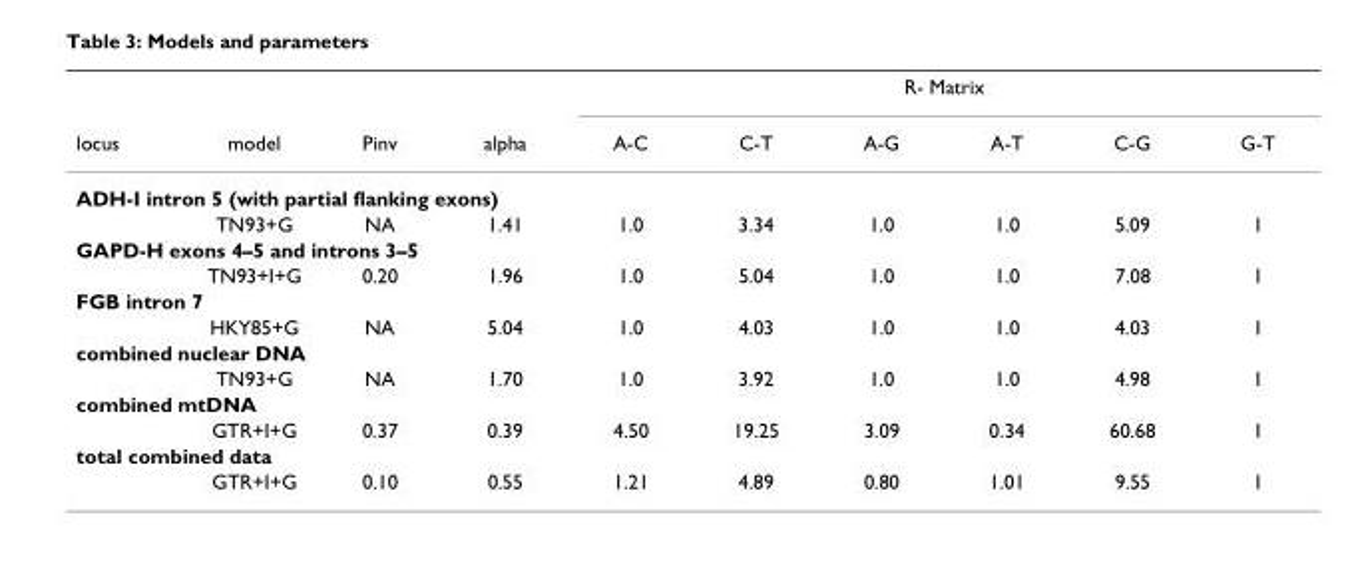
<table><thead><tr><td rowspan="2">locus</td><td rowspan="2">model</td><td rowspan="2">Pinv</td><td rowspan="2">alpha</td><td colspan="6">R- Matrix</td></tr><tr><td>A-C</td><td>C-T</td><td>A-G</td><td>A-T</td><td>C-G</td><td>G-T</td></tr></thead><tbody><tr><td colspan="10">ADH-I intron 5 (with partial flanking exons)</td></tr><tr><td></td><td>TN93+G</td><td>NA</td><td>1.41</td><td>1.0</td><td>3.34</td><td>1.0</td><td>1.0</td><td>5.09</td><td>1</td></tr><tr><td colspan="10">GAPD-H exons 4–5 and introns 3–5</td></tr><tr><td></td><td>TN93+I+G</td><td>0.20</td><td>1.96</td><td>1.0</td><td>5.04</td><td>1.0</td><td>1.0</td><td>7.08</td><td>1</td></tr><tr><td colspan="10">FGB intron 7</td></tr><tr><td></td><td>HKY85+G</td><td>NA</td><td>5.04</td><td>1.0</td><td>4.03</td><td>1.0</td><td>1.0</td><td>4.03</td><td>1</td></tr><tr><td colspan="10">combined nuclear DNA</td></tr><tr><td></td><td>TN93+G</td><td>NA</td><td>1.70</td><td>1.0</td><td>3.92</td><td>1.0</td><td>1.0</td><td>4.98</td><td>1</td></tr><tr><td colspan="10">combined mtDNA</td></tr><tr><td></td><td>GTR+I+G</td><td>0.37</td><td>0.39</td><td>4.50</td><td>19.25</td><td>3.09</td><td>0.34</td><td>60.68</td><td>1</td></tr><tr><td colspan="10">total combined data</td></tr><tr><td></td><td>GTR+I+G</td><td>0.10</td><td>0.55</td><td>1.21</td><td>4.89</td><td>0.80</td><td>1.01</td><td>9.55</td><td>1</td></tr></tbody></table>